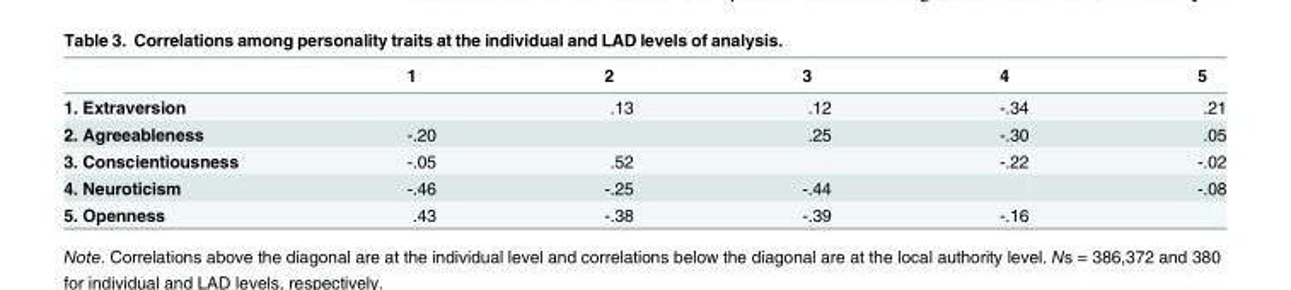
<table><thead><tr><td></td><td>1</td><td>2</td><td>3</td><td>4</td><td>5</td></tr></thead><tbody><tr><td>1. Extraversion</td><td></td><td>.13</td><td>.12</td><td>-.34</td><td>.21</td></tr><tr><td>2. Agreeableness</td><td>-.20</td><td></td><td>.25</td><td>-.30</td><td>.05</td></tr><tr><td>3. Conscientiousness</td><td>-.05</td><td>.52</td><td></td><td>-.22</td><td>-.02</td></tr><tr><td>4. Neuroticism</td><td>-.46</td><td>-.25</td><td>-.44</td><td></td><td>-.08</td></tr><tr><td>5. Openness</td><td>.43</td><td>-.38</td><td>-.39</td><td>-.16</td><td></td></tr></tbody></table>